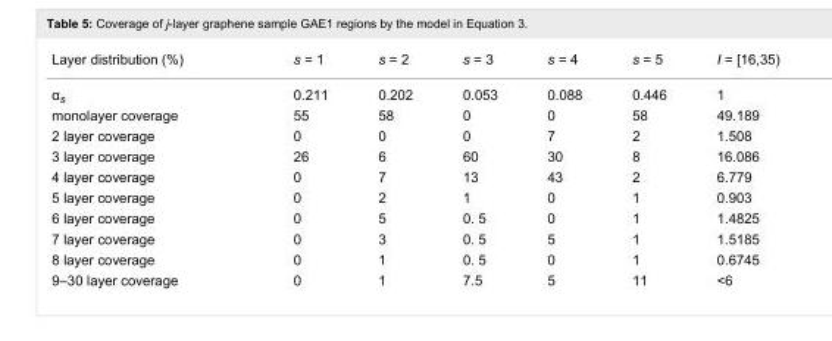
<table><tbody><tr><td>Layer distribution (%)</td><td>s = 1</td><td>s = 2</td><td>s = 3</td><td>s = 4</td><td>s = 5</td><td>I = [16,35)</td></tr><tr><td>α<sub>s</sub></td><td>0.211</td><td>0.202</td><td>0.053</td><td>0.088</td><td>0.446</td><td>1</td></tr><tr><td>monolayer coverage</td><td>55</td><td>58</td><td>0</td><td>0</td><td>58</td><td>49.189</td></tr><tr><td>2 layer coverage</td><td>0</td><td>0</td><td>0</td><td>7</td><td>2</td><td>1.508</td></tr><tr><td>3 layer coverage</td><td>26</td><td>6</td><td>60</td><td>30</td><td>8</td><td>16.086</td></tr><tr><td>4 layer coverage</td><td>0</td><td>7</td><td>13</td><td>43</td><td>2</td><td>6.779</td></tr><tr><td>5 layer coverage</td><td>0</td><td>2</td><td>1</td><td>0</td><td>1</td><td>0.903</td></tr><tr><td>6 layer coverage</td><td>0</td><td>5</td><td>0. 5</td><td>0</td><td>1</td><td>1.4825</td></tr><tr><td>7 layer coverage</td><td>0</td><td>3</td><td>0. 5</td><td>5</td><td>1</td><td>1.5185</td></tr><tr><td>8 layer coverage</td><td>0</td><td>1</td><td>0. 5</td><td>0</td><td>1</td><td>0.6745</td></tr><tr><td>9–30 layer coverage</td><td>0</td><td>1</td><td>7.5</td><td>5</td><td>11</td><td>&lt;6</td></tr></tbody></table>